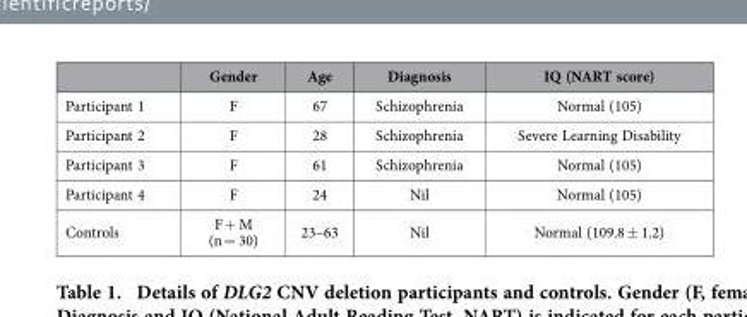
<table><thead><tr><td></td><td>Gender</td><td>Age</td><td>Diagnosis</td><td>IQ (NART score)</td></tr></thead><tbody><tr><td>Participant 1</td><td>F</td><td>67</td><td>Schizophrenia</td><td>Normal (105)</td></tr><tr><td>Participant 2</td><td>F</td><td>28</td><td>Schizophrenia</td><td>Severe Learning Disability</td></tr><tr><td>Participant 3</td><td>F</td><td>61</td><td>Schizophrenia</td><td>Normal (105)</td></tr><tr><td>Participant 4</td><td>F</td><td>24</td><td>Nil</td><td>Normal (105)</td></tr><tr><td>Controls</td><td>F + M (n = 30)</td><td>23–63</td><td>Nil</td><td>Normal (109.8 ± 1.2)</td></tr></tbody></table>